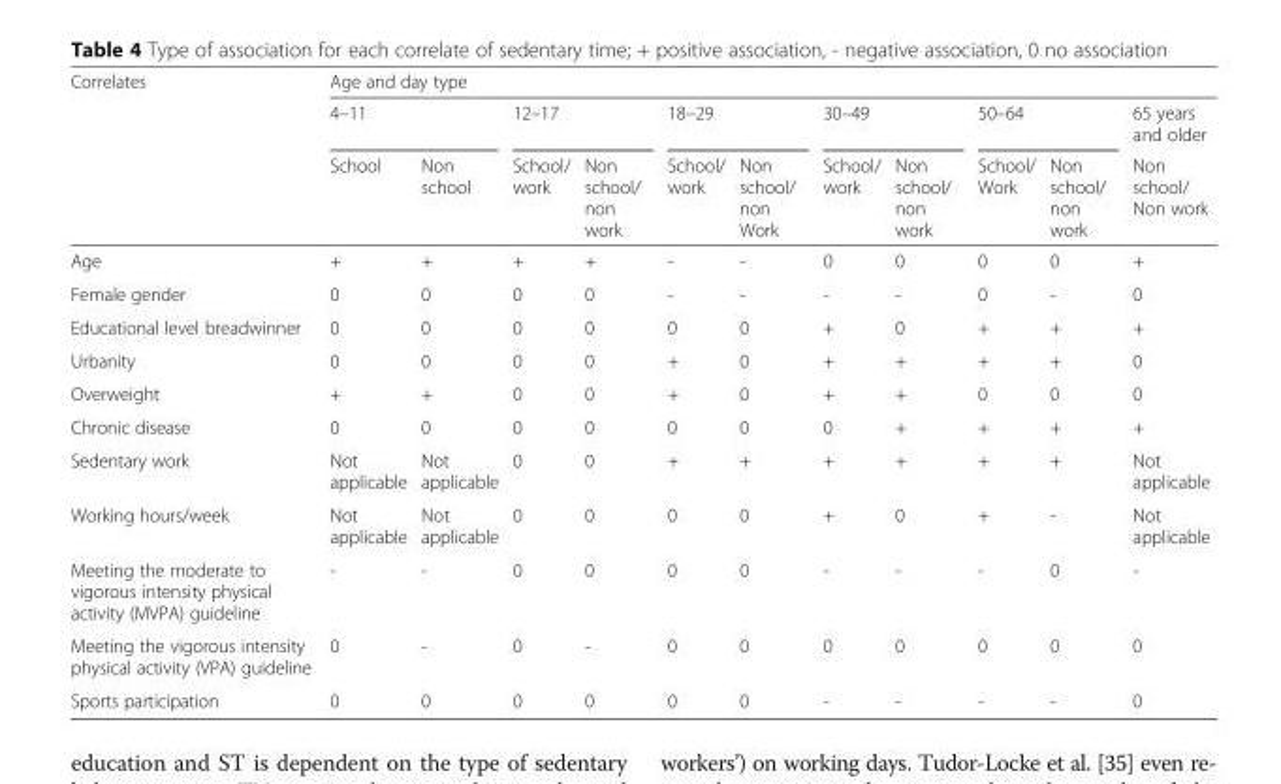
<table><thead><tr><td rowspan="3">Correlates</td><td colspan="11">Age and day type</td></tr><tr><td colspan="2">4–11</td><td colspan="2">12–17</td><td colspan="2">18–29</td><td colspan="2">30–49</td><td colspan="2">50–64</td><td rowspan="2">65 years and older Non school/ Non work</td></tr><tr><td>School</td><td>Non school</td><td>School/ work</td><td>Non school/ non work</td><td>School/ work</td><td>Non school/ non Work</td><td>School/ work</td><td>Non school/ non work</td><td>School/ Work</td><td>Non school/ non work</td></tr></thead><tbody><tr><td>Age</td><td>+</td><td>+</td><td>+</td><td>+</td><td>-</td><td>-</td><td>0</td><td>0</td><td>0</td><td>0</td><td>+</td></tr><tr><td>Female gender</td><td>0</td><td>0</td><td>0</td><td>0</td><td>-</td><td>-</td><td>-</td><td>-</td><td>0</td><td>-</td><td>0</td></tr><tr><td>Educational level breadwinner</td><td>0</td><td>0</td><td>0</td><td>0</td><td>0</td><td>0</td><td>+</td><td>0</td><td>+</td><td>+</td><td>+</td></tr><tr><td>Urbanity</td><td>0</td><td>0</td><td>0</td><td>0</td><td>+</td><td>0</td><td>+</td><td>+</td><td>+</td><td>+</td><td>0</td></tr><tr><td>Overweight</td><td>+</td><td>+</td><td>0</td><td>0</td><td>+</td><td>0</td><td>+</td><td>+</td><td>0</td><td>0</td><td>0</td></tr><tr><td>Chronic disease</td><td>0</td><td>0</td><td>0</td><td>0</td><td>0</td><td>0</td><td>0</td><td>+</td><td>+</td><td>+</td><td>+</td></tr><tr><td>Sedentary work</td><td>Not applicable</td><td>Not applicable</td><td>0</td><td>0</td><td>+</td><td>+</td><td>+</td><td>+</td><td>+</td><td>+</td><td>Not applicable</td></tr><tr><td>Working hours/week</td><td>Not applicable</td><td>Not applicable</td><td>0</td><td>0</td><td>0</td><td>0</td><td>+</td><td>0</td><td>+</td><td>-</td><td>Not applicable</td></tr><tr><td>Meeting the moderate to vigorous intensity physical activity (MVPA) guideline</td><td>-</td><td>-</td><td>0</td><td>0</td><td>0</td><td>0</td><td>-</td><td>-</td><td>-</td><td>0</td><td>-</td></tr><tr><td>Meeting the vigorous intensity physical activity (VPA) guideline</td><td>0</td><td>-</td><td>0</td><td>-</td><td>0</td><td>0</td><td>0</td><td>0</td><td>0</td><td>0</td><td>0</td></tr><tr><td>Sports participation</td><td>0</td><td>0</td><td>0</td><td>0</td><td>0</td><td>0</td><td>-</td><td>-</td><td>-</td><td>-</td><td>0</td></tr></tbody></table>